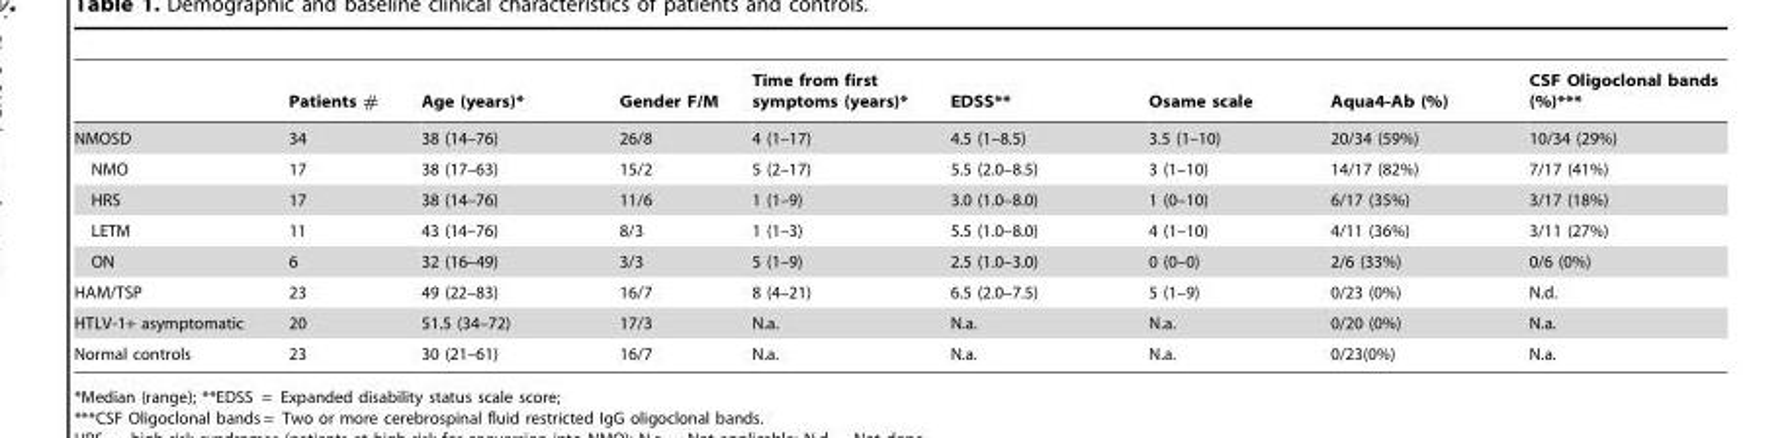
<table><thead><tr><td></td><td>Patients #</td><td>Age (years)*</td><td>Gender F/M</td><td>Time from first symptoms (years)*</td><td>EDSS**</td><td>Osame scale</td><td>Aqua4-Ab (%)</td><td>CSF Oligoclonal bands (%)***</td></tr></thead><tbody><tr><td>NMOSD</td><td>34</td><td>38 (14–76)</td><td>26/8</td><td>4 (1–17)</td><td>4.5 (1–8.5)</td><td>3.5 (1–10)</td><td>20/34 (59%)</td><td>10/34 (29%)</td></tr><tr><td>NMO</td><td>17</td><td>38 (17–63)</td><td>15/2</td><td>5 (2–17)</td><td>5.5 (2.0–8.5)</td><td>3 (1–10)</td><td>14/17 (82%)</td><td>7/17 (41%)</td></tr><tr><td>HRS</td><td>17</td><td>38 (14–76)</td><td>11/6</td><td>1 (1–9)</td><td>3.0 (1.0–8.0)</td><td>1 (0–10)</td><td>6/17 (35%)</td><td>3/17 (18%)</td></tr><tr><td>LETM</td><td>11</td><td>43 (14–76)</td><td>8/3</td><td>1 (1–3)</td><td>5.5 (1.0–8.0)</td><td>4 (1–10)</td><td>4/11 (36%)</td><td>3/11 (27%)</td></tr><tr><td>ON</td><td>6</td><td>32 (16–49)</td><td>3/3</td><td>5 (1–9)</td><td>2.5 (1.0–3.0)</td><td>0 (0–0)</td><td>2/6 (33%)</td><td>0/6 (0%)</td></tr><tr><td>HAM/TSP</td><td>23</td><td>49 (22–83)</td><td>16/7</td><td>8 (4–21)</td><td>6.5 (2.0–7.5)</td><td>5 (1–9)</td><td>0/23 (0%)</td><td>N.d.</td></tr><tr><td>HTLV-1+ asymptomatic</td><td>20</td><td>51.5 (34–72)</td><td>17/3</td><td>N.a.</td><td>N.a.</td><td>N.a.</td><td>0/20 (0%)</td><td>N.a.</td></tr><tr><td>Normal controls</td><td>23</td><td>30 (21–61)</td><td>16/7</td><td>N.a.</td><td>N.a.</td><td>N.a.</td><td>0/23(0%)</td><td>N.a.</td></tr></tbody></table>